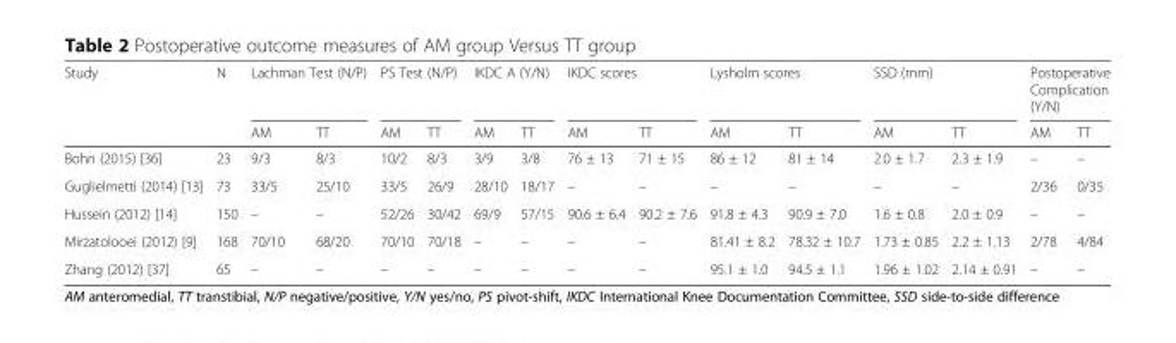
<table><thead><tr><td rowspan="2">Study</td><td rowspan="2">N</td><td colspan="2">Lachman Test (N/P)</td><td colspan="2">PS Test (N/P)</td><td colspan="2">IKDC A (Y/N)</td><td colspan="2">IKDC scores</td><td colspan="2">Lysholm scores</td><td colspan="2">SSD (mm)</td><td colspan="2">Postoperative Complication (Y/N)</td></tr><tr><td>AM</td><td>TT</td><td>AM</td><td>TT</td><td>AM</td><td>TT</td><td>AM</td><td>TT</td><td>AM</td><td>TT</td><td>AM</td><td>TT</td><td>AM</td><td>TT</td></tr></thead><tbody><tr><td>Bohn (2015) [36]</td><td>23</td><td>9/3</td><td>8/3</td><td>10/2</td><td>8/3</td><td>3/9</td><td>3/8</td><td>76 ± 13</td><td>71 ± 15</td><td>86 ± 12</td><td>81 ± 14</td><td>2.0 ± 1.7</td><td>2.3 ± 1.9</td><td>–</td><td>–</td></tr><tr><td>Guglielmetti (2014) [13]</td><td>73</td><td>33/5</td><td>25/10</td><td>33/5</td><td>26/9</td><td>28/10</td><td>18/17</td><td>–</td><td>–</td><td>–</td><td>–</td><td>–</td><td>–</td><td>2/36</td><td>0/35</td></tr><tr><td>Hussein (2012) [14]</td><td>150</td><td>–</td><td>–</td><td>52/26</td><td>30/42</td><td>69/9</td><td>57/15</td><td>90.6 ± 6.4</td><td>90.2 ± 7.6</td><td>91.8 ± 4.3</td><td>90.9 ± 7.0</td><td>1.6 ± 0.8</td><td>2.0 ± 0.9</td><td>–</td><td>–</td></tr><tr><td>Mirzatolooei (2012) [9]</td><td>168</td><td>70/10</td><td>68/20</td><td>70/10</td><td>70/18</td><td>–</td><td>–</td><td>–</td><td>–</td><td>81.41 ± 8.2</td><td>78.32 ± 10.7</td><td>1.73 ± 0.85</td><td>2.2 ± 1.13</td><td>2/78</td><td>4/84</td></tr><tr><td>Zhang (2012) [37]</td><td>65</td><td>–</td><td>–</td><td>–</td><td>–</td><td>–</td><td>–</td><td>–</td><td>–</td><td>95.1 ± 1.0</td><td>94.5 ± 1.1</td><td>1.96 ± 1.02</td><td>2.14 ± 0.91</td><td>–</td><td>–</td></tr></tbody></table>